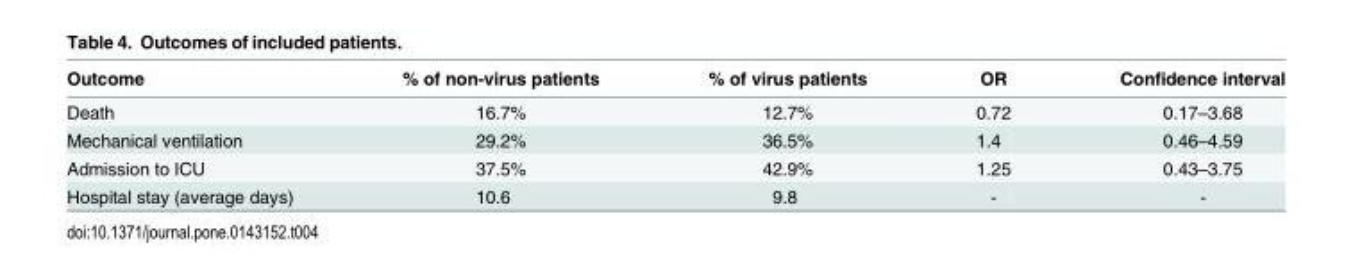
<table><thead><tr><td>Outcome</td><td>% of non-virus patients</td><td>% of virus patients</td><td>OR</td><td>Confidence interval</td></tr></thead><tbody><tr><td>Death</td><td>16.7%</td><td>12.7%</td><td>0.72</td><td>0.17–3.68</td></tr><tr><td>Mechanical ventilation</td><td>29.2%</td><td>36.5%</td><td>1.4</td><td>0.46–4.59</td></tr><tr><td>Admission to ICU</td><td>37.5%</td><td>42.9%</td><td>1.25</td><td>0.43–3.75</td></tr><tr><td>Hospital stay (average days)</td><td>10.6</td><td>9.8</td><td>-</td><td>-</td></tr></tbody></table>